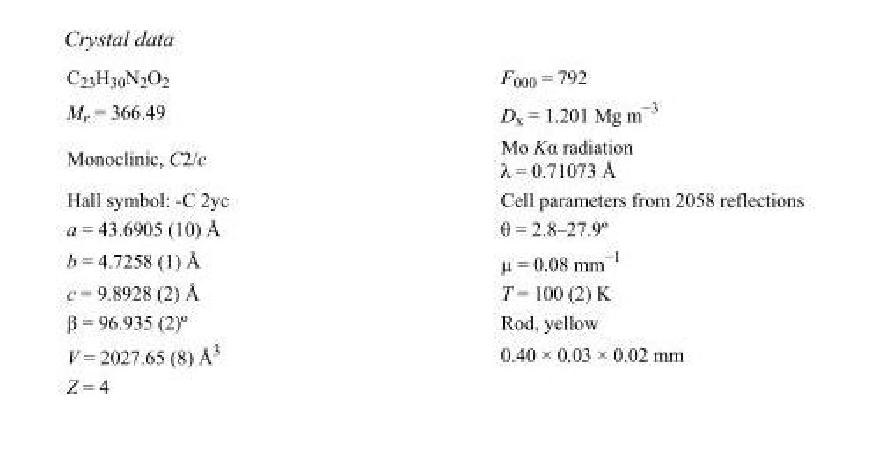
<table><tbody><tr><td>C<sub>23</sub>H<sub>30</sub>N<sub>2</sub>O<sub>2</sub></td><td>F<sub>000</sub> = 792</td></tr><tr><td>M<sub>r</sub> = 366.49</td><td>D<sub>x</sub> = 1.201 Mg m<sup>−3</sup></td></tr><tr><td>Monoclinic, C2/c</td><td>Mo Kα radiation λ = 0.71073 Å</td></tr><tr><td>Hall symbol: -C 2yc</td><td>Cell parameters from 2058 reflections</td></tr><tr><td>a = 43.6905 (10) Å</td><td>θ = 2.8–27.9º</td></tr><tr><td>b = 4.7258 (1) Å</td><td>µ = 0.08 mm<sup>−1</sup></td></tr><tr><td>c = 9.8928 (2) Å</td><td>T = 100 (2) K</td></tr><tr><td>β = 96.935 (2)º</td><td>Rod, yellow</td></tr><tr><td>V = 2027.65 (8) Å<sup>3</sup></td><td>0.40 × 0.03 × 0.02 mm</td></tr><tr><td>Z = 4</td><td></td></tr></tbody></table>